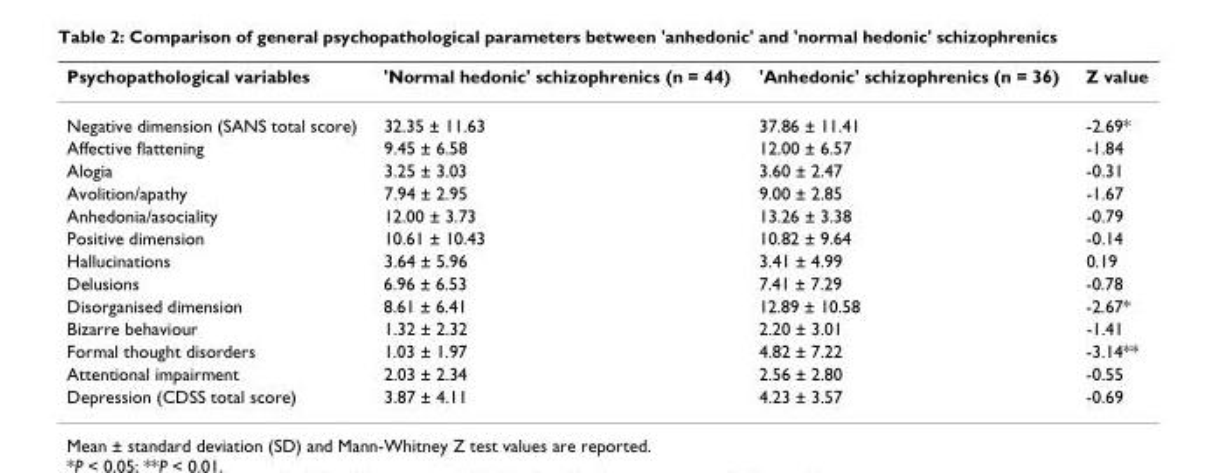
<table><thead><tr><td>Psychopathological variables</td><td>&#x27;Normal hedonic&#x27; schizophrenics (n = 44)</td><td>&#x27;Anhedonic&#x27; schizophrenics (n = 36)</td><td>Z value</td></tr></thead><tbody><tr><td>Negative dimension (SANS total score)</td><td>32.35 ± 11.63</td><td>37.86 ± 11.41</td><td>-2.69*</td></tr><tr><td>Affective flattening</td><td>9.45 ± 6.58</td><td>12.00 ± 6.57</td><td>-1.84</td></tr><tr><td>Alogia</td><td>3.25 ± 3.03</td><td>3.60 ± 2.47</td><td>-0.31</td></tr><tr><td>Avolition/apathy</td><td>7.94 ± 2.95</td><td>9.00 ± 2.85</td><td>-1.67</td></tr><tr><td>Anhedonia/asociality</td><td>12.00 ± 3.73</td><td>13.26 ± 3.38</td><td>-0.79</td></tr><tr><td>Positive dimension</td><td>10.61 ± 10.43</td><td>10.82 ± 9.64</td><td>-0.14</td></tr><tr><td>Hallucinations</td><td>3.64 ± 5.96</td><td>3.41 ± 4.99</td><td>0.19</td></tr><tr><td>Delusions</td><td>6.96 ± 6.53</td><td>7.41 ± 7.29</td><td>-0.78</td></tr><tr><td>Disorganised dimension</td><td>8.61 ± 6.41</td><td>12.89 ± 10.58</td><td>-2.67*</td></tr><tr><td>Bizarre behaviour</td><td>1.32 ± 2.32</td><td>2.20 ± 3.01</td><td>-1.41</td></tr><tr><td>Formal thought disorders</td><td>1.03 ± 1.97</td><td>4.82 ± 7.22</td><td>-3.14**</td></tr><tr><td>Attentional impairment</td><td>2.03 ± 2.34</td><td>2.56 ± 2.80</td><td>-0.55</td></tr><tr><td>Depression (CDSS total score)</td><td>3.87 ± 4.11</td><td>4.23 ± 3.57</td><td>-0.69</td></tr></tbody></table>